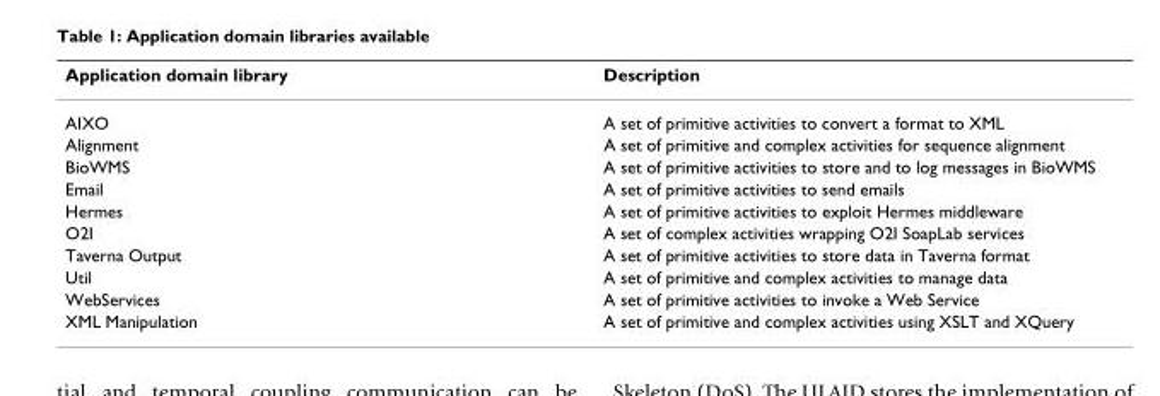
<table><thead><tr><td>Application domain library</td><td>Description</td></tr></thead><tbody><tr><td>AIXO</td><td>A set of primitive activities to convert a format to XML</td></tr><tr><td>Alignment</td><td>A set of primitive and complex activities for sequence alignment</td></tr><tr><td>BioWMS</td><td>A set of primitive activities to store and to log messages in BioWMS</td></tr><tr><td>Email</td><td>A set of primitive activities to send emails</td></tr><tr><td>Hermes</td><td>A set of primitive activities to exploit Hermes middleware</td></tr><tr><td>O2I</td><td>A set of complex activities wrapping O2I SoapLab services</td></tr><tr><td>Taverna Output</td><td>A set of primitive activities to store data in Taverna format</td></tr><tr><td>Util</td><td>A set of primitive and complex activities to manage data</td></tr><tr><td>WebServices</td><td>A set of primitive activities to invoke a Web Service</td></tr><tr><td>XML Manipulation</td><td>A set of primitive and complex activities using XSLT and XQuery</td></tr></tbody></table>